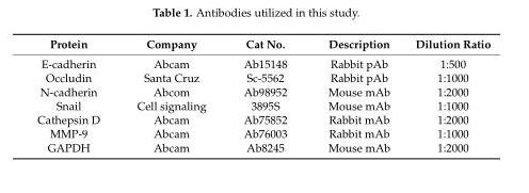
<table><thead><tr><td>Protein</td><td>Company</td><td>Cat No.</td><td>Description</td><td>Dilution Ratio</td></tr></thead><tbody><tr><td>E-cadherin</td><td>Abcam</td><td>Ab15148</td><td>Rabbit pAb</td><td>1:500</td></tr><tr><td>Occludin</td><td>Santa Cruz</td><td>Sc-5562</td><td>Rabbit pAb</td><td>1:1000</td></tr><tr><td>N-cadherin</td><td>Abcom</td><td>Ab98952</td><td>Mouse mAb</td><td>1:2000</td></tr><tr><td>Snail</td><td>Cell signaling</td><td>3895S</td><td>Mouse mAb</td><td>1:1000</td></tr><tr><td>Cathepsin D</td><td>Abcam</td><td>Ab75852</td><td>Rabbit mAb</td><td>1:2000</td></tr><tr><td>MMP-9</td><td>Abcam</td><td>Ab76003</td><td>Rabbit mAb</td><td>1:1000</td></tr><tr><td>GAPDH</td><td>Abcam</td><td>Ab8245</td><td>Mouse mAb</td><td>1:2000</td></tr></tbody></table>